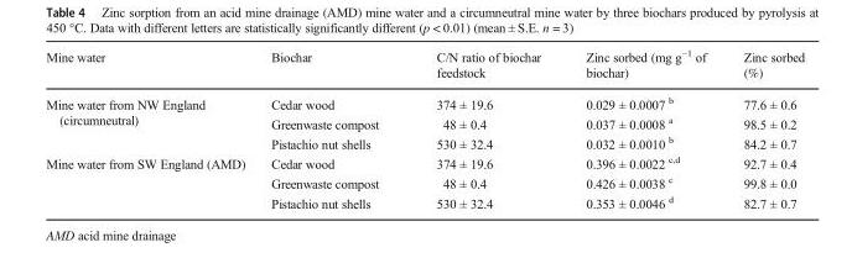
<table><thead><tr><td>Mine water</td><td>Biochar</td><td>C/N ratio of biochar feedstock</td><td>Zinc sorbed (mg g<sup>−1</sup> of biochar)</td><td>Zinc sorbed (%)</td></tr></thead><tbody><tr><td rowspan="3">Mine water from NW England (circumneutral)</td><td>Cedar wood</td><td>374 ± 19.6</td><td>0.029 ± 0.0007 <sup>b</sup></td><td>77.6 ± 0.6</td></tr><tr><td>Greenwaste compost</td><td>48 ± 0.4</td><td>0.037 ± 0.0008 <sup>a</sup></td><td>98.5 ± 0.2</td></tr><tr><td>Pistachio nut shells</td><td>530 ± 32.4</td><td>0.032 ± 0.0010 <sup>b</sup></td><td>84.2 ± 0.7</td></tr><tr><td rowspan="3">Mine water from SW England (AMD)</td><td>Cedar wood</td><td>374 ± 19.6</td><td>0.396 ± 0.0022 <sup>c,d</sup></td><td>92.7 ± 0.4</td></tr><tr><td>Greenwaste compost</td><td>48 ± 0.4</td><td>0.426 ± 0.0038 <sup>c</sup></td><td>99.8 ± 0.0</td></tr><tr><td>Pistachio nut shells</td><td>530 ± 32.4</td><td>0.353 ± 0.0046 <sup>d</sup></td><td>82.7 ± 0.7</td></tr></tbody></table>